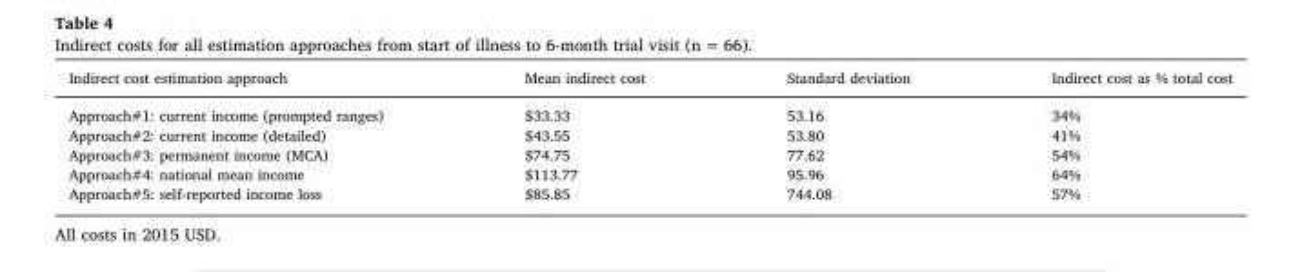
<table><thead><tr><td>Indirect cost estimation approach</td><td>Mean indirect cost</td><td>Standard deviation</td><td>Indirect cost as % total cost</td></tr></thead><tbody><tr><td>Approach#1: current income (prompted ranges)</td><td>$33.33</td><td>53.16</td><td>34%</td></tr><tr><td>Approach#2: current income (detailed)</td><td>$43.55</td><td>53.80</td><td>41%</td></tr><tr><td>Approach#3: permanent income (MCA)</td><td>$74.75</td><td>77.62</td><td>54%</td></tr><tr><td>Approach#4: national mean income</td><td>$113.77</td><td>95.96</td><td>64%</td></tr><tr><td>Approach#5: self-reported income loss</td><td>$85.85</td><td>744.08</td><td>57%</td></tr></tbody></table>